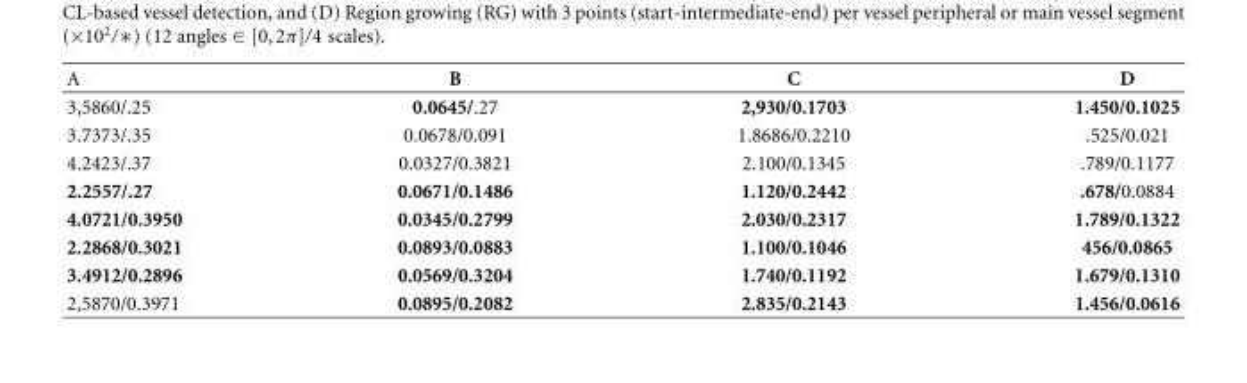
<table><thead><tr><td>A</td><td>B</td><td>C</td><td>D</td></tr></thead><tbody><tr><td>3,5860/.25</td><td>0.0645/.27</td><td>2,930/0.1703</td><td>1.450/0.1025</td></tr><tr><td>3.7373/.35</td><td>0.0678/0.091</td><td>1.8686/0.2210</td><td>.525/0.021</td></tr><tr><td>4.2423/.37</td><td>0.0327/0.3821</td><td>2.100/0.1345</td><td>.789/0.1177</td></tr><tr><td>2.2557/.27</td><td>0.0671/0.1486</td><td>1.120/0.2442</td><td>.678/0.0884</td></tr><tr><td>4.0721/0.3950</td><td>0.0345/0.2799</td><td>2.030/0.2317</td><td>1.789/0.1322</td></tr><tr><td>2.2868/0.3021</td><td>0.0893/0.0883</td><td>1.100/0.1046</td><td>456/0.0865</td></tr><tr><td>3.4912/0.2896</td><td>0.0569/0.3204</td><td>1.740/0.1192</td><td>1.679/0.1310</td></tr><tr><td>2,5870/0.3971</td><td>0.0895/0.2082</td><td>2.835/0.2143</td><td>1.456/0.0616</td></tr></tbody></table>